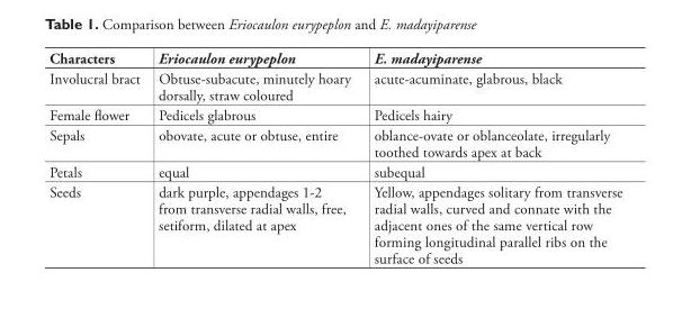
<table><thead><tr><td>Characters</td><td>Eriocaulon eurypeplon</td><td>E. madayiparense</td></tr></thead><tbody><tr><td>Involucral bract</td><td>Obtuse-subacute, minutely hoary dorsally, straw coloured</td><td>acute-acuminate, glabrous, black</td></tr><tr><td>Female fl ower</td><td>Pedicels glabrous</td><td>Pedicels hairy</td></tr><tr><td>Sepals</td><td>obovate, acute or obtuse, entire</td><td>oblance-ovate or oblanceolate, irregularly toothed towards apex at back</td></tr><tr><td>Petals</td><td>equal</td><td>subequal</td></tr><tr><td>Seeds</td><td>dark purple, appendages 1-2 from transverse radial walls, free, setiform, dilated at apex</td><td>Yellow, appendages solitary from transverse radial walls, curved and connate with the adjacent ones of the same vertical row forming longitudinal parallel ribs on the surface of seeds</td></tr></tbody></table>